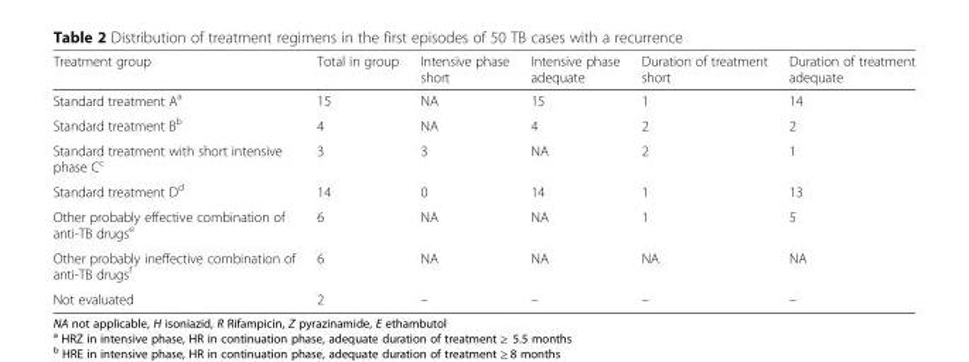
<table><thead><tr><td>Treatment group</td><td>Total in group</td><td>Intensive phase short</td><td>Intensive phase adequate</td><td>Duration of treatment short</td><td>Duration of treatment adequate</td></tr></thead><tbody><tr><td>Standard treatment A<sup>a</sup></td><td>15</td><td>NA</td><td>15</td><td>1</td><td>14</td></tr><tr><td>Standard treatment B<sup>b</sup></td><td>4</td><td>NA</td><td>4</td><td>2</td><td>2</td></tr><tr><td>Standard treatment with short intensive phase C<sup>c</sup></td><td>3</td><td>3</td><td>NA</td><td>2</td><td>1</td></tr><tr><td>Standard treatment D<sup>d</sup></td><td>14</td><td>0</td><td>14</td><td>1</td><td>13</td></tr><tr><td>Other probably effective combination of anti-TB drugs<sup>e</sup></td><td>6</td><td>NA</td><td>NA</td><td>1</td><td>5</td></tr><tr><td>Other probably ineffective combination of anti-TB drugs<sup>f</sup></td><td>6</td><td>NA</td><td>NA</td><td>NA</td><td>NA</td></tr><tr><td>Not evaluated</td><td>2</td><td>–</td><td>–</td><td>–</td><td>–</td></tr></tbody></table>